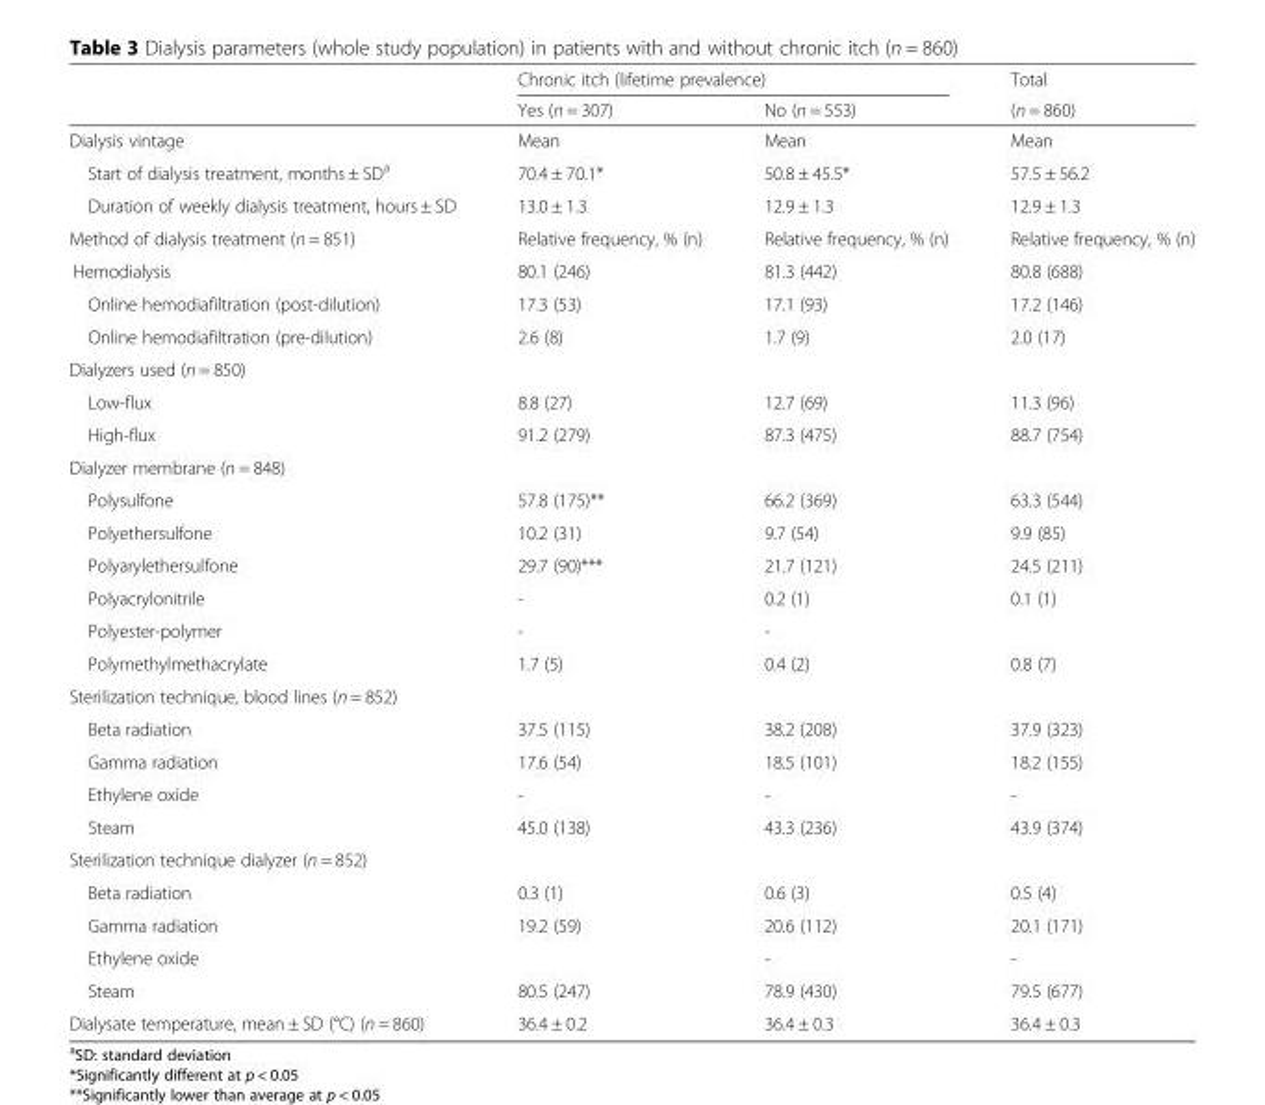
<table><thead><tr><td rowspan="2"></td><td colspan="2">Chronic itch (lifetime prevalence)</td><td rowspan="2">Total (n = 860)</td></tr><tr><td>Yes (n = 307)</td><td>No (n = 553)</td></tr></thead><tbody><tr><td>Dialysis vintage</td><td>Mean</td><td>Mean</td><td>Mean</td></tr><tr><td>Start of dialysis treatment, months ± SD<sup>a</sup></td><td>70.4 ± 70.1*</td><td>50.8 ± 45.5*</td><td>57.5 ± 56.2</td></tr><tr><td>Duration of weekly dialysis treatment, hours ± SD</td><td>13.0 ± 1.3</td><td>12.9 ± 1.3</td><td>12.9 ± 1.3</td></tr><tr><td>Method of dialysis treatment (n = 851)</td><td>Relative frequency, % (n)</td><td>Relative frequency, % (n)</td><td>Relative frequency, % (n)</td></tr><tr><td>Hemodialysis</td><td>80.1 (246)</td><td>81.3 (442)</td><td>80.8 (688)</td></tr><tr><td>Online hemodiafiltration (post-dilution)</td><td>17.3 (53)</td><td>17.1 (93)</td><td>17.2 (146)</td></tr><tr><td>Online hemodiafiltration (pre-dilution)</td><td>2.6 (8)</td><td>1.7 (9)</td><td>2.0 (17)</td></tr><tr><td colspan="4">Dialyzers used (n = 850)</td></tr><tr><td>Low-flux</td><td>8.8 (27)</td><td>12.7 (69)</td><td>11.3 (96)</td></tr><tr><td>High-flux</td><td>91.2 (279)</td><td>87.3 (475)</td><td>88.7 (754)</td></tr><tr><td colspan="4">Dialyzer membrane (n = 848)</td></tr><tr><td>Polysulfone</td><td>57.8 (175)**</td><td>66.2 (369)</td><td>63.3 (544)</td></tr><tr><td>Polyethersulfone</td><td>10.2 (31)</td><td>9.7 (54)</td><td>9.9 (85)</td></tr><tr><td>Polyarylethersulfone</td><td>29.7 (90)***</td><td>21.7 (121)</td><td>24.5 (211)</td></tr><tr><td>Polyacrylonitrile</td><td>-</td><td>0.2 (1)</td><td>0.1 (1)</td></tr><tr><td>Polyester-polymer</td><td>-</td><td>-</td><td></td></tr><tr><td>Polymethylmethacrylate</td><td>1.7 (5)</td><td>0.4 (2)</td><td>0.8 (7)</td></tr><tr><td colspan="4">Sterilization technique, blood lines (n = 852)</td></tr><tr><td>Beta radiation</td><td>37.5 (115)</td><td>38.2 (208)</td><td>37.9 (323)</td></tr><tr><td>Gamma radiation</td><td>17.6 (54)</td><td>18.5 (101)</td><td>18.2 (155)</td></tr><tr><td>Ethylene oxide</td><td>-</td><td>-</td><td>-</td></tr><tr><td>Steam</td><td>45.0 (138)</td><td>43.3 (236)</td><td>43.9 (374)</td></tr><tr><td colspan="4">Sterilization technique dialyzer (n = 852)</td></tr><tr><td>Beta radiation</td><td>0.3 (1)</td><td>0.6 (3)</td><td>0.5 (4)</td></tr><tr><td>Gamma radiation</td><td>19.2 (59)</td><td>20.6 (112)</td><td>20.1 (171)</td></tr><tr><td>Ethylene oxide</td><td></td><td>-</td><td>-</td></tr><tr><td>Steam</td><td>80.5 (247)</td><td>78.9 (430)</td><td>79.5 (677)</td></tr><tr><td>Dialysate temperature, mean ± SD (°C) (n = 860)</td><td>36.4 ± 0.2</td><td>36.4 ± 0.3</td><td>36.4 ± 0.3</td></tr></tbody></table>